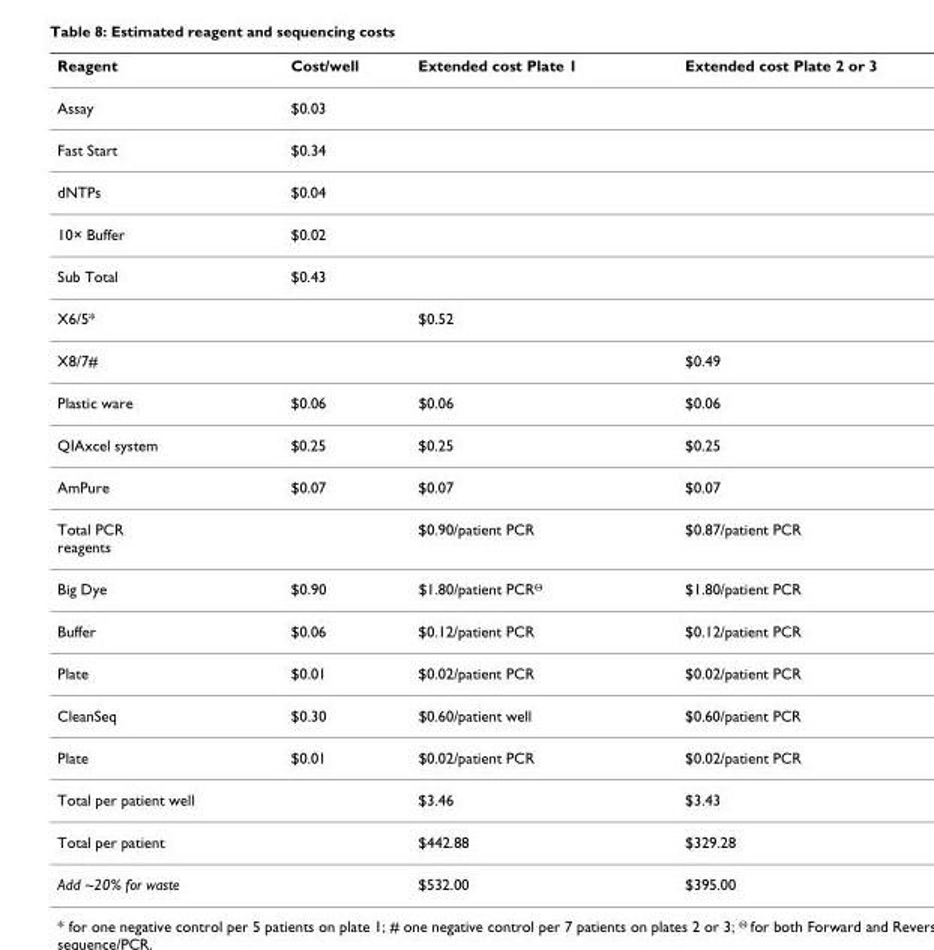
<table><thead><tr><td>Reagent</td><td>Cost/well</td><td>Extended cost Plate 1</td><td>Extended cost Plate 2 or 3</td></tr></thead><tbody><tr><td>Assay</td><td>$0.03</td><td></td><td></td></tr><tr><td>Fast Start</td><td>$0.34</td><td></td><td></td></tr><tr><td>dNTPs</td><td>$0.04</td><td></td><td></td></tr><tr><td>10× Buffer</td><td>$0.02</td><td></td><td></td></tr><tr><td>Sub Total</td><td>$0.43</td><td></td><td></td></tr><tr><td>X6/5*</td><td></td><td>$0.52</td><td></td></tr><tr><td>X8/7#</td><td></td><td></td><td>$0.49</td></tr><tr><td>Plastic ware</td><td>$0.06</td><td>$0.06</td><td>$0.06</td></tr><tr><td>QIAxcel system</td><td>$0.25</td><td>$0.25</td><td>$0.25</td></tr><tr><td>AmPure</td><td>$0.07</td><td>$0.07</td><td>$0.07</td></tr><tr><td>Total PCR reagents</td><td></td><td>$0.90/patient PCR</td><td>$0.87/patient PCR</td></tr><tr><td>Big Dye</td><td>$0.90</td><td>$1.80/patient PCR<sup>Θ</sup></td><td>$1.80/patient PCR</td></tr><tr><td>Buffer</td><td>$0.06</td><td>$0.12/patient PCR</td><td>$0.12/patient PCR</td></tr><tr><td>Plate</td><td>$0.01</td><td>$0.02/patient PCR</td><td>$0.02/patient PCR</td></tr><tr><td>CleanSeq</td><td>$0.30</td><td>$0.60/patient well</td><td>$0.60/patient PCR</td></tr><tr><td>Plate</td><td>$0.01</td><td>$0.02/patient PCR</td><td>$0.02/patient PCR</td></tr><tr><td>Total per patient well</td><td></td><td>$3.46</td><td>$3.43</td></tr><tr><td>Total per patient</td><td></td><td>$442.88</td><td>$329.28</td></tr><tr><td>Add ~20% for waste</td><td></td><td>$532.00</td><td>$395.00</td></tr></tbody></table>